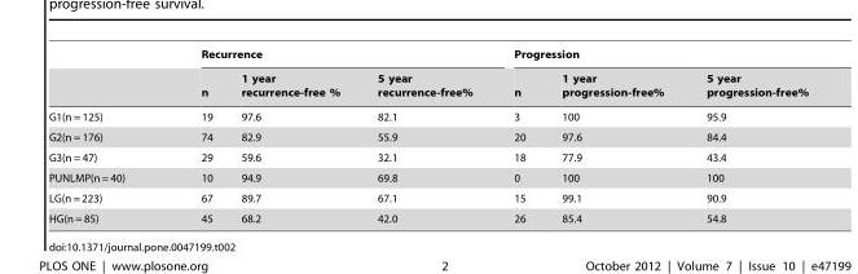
<table><thead><tr><td rowspan="2"></td><td colspan="3">Recurrence</td><td colspan="3">Progression</td></tr><tr><td>n</td><td>1 year recurrence-free %</td><td>5 year recurrence-free%</td><td>n</td><td>1 year progression-free%</td><td>5 year progression-free%</td></tr></thead><tbody><tr><td>G1(n = 125)</td><td>19</td><td>97.6</td><td>82.1</td><td>3</td><td>100</td><td>95.9</td></tr><tr><td>G2(n = 176)</td><td>74</td><td>82.9</td><td>55.9</td><td>20</td><td>97.6</td><td>84.4</td></tr><tr><td>G3(n = 47)</td><td>29</td><td>59.6</td><td>32.1</td><td>18</td><td>77.9</td><td>43.4</td></tr><tr><td>PUNLMP(n = 40)</td><td>10</td><td>94.9</td><td>69.8</td><td>0</td><td>100</td><td>100</td></tr><tr><td>LG(n = 223)</td><td>67</td><td>89.7</td><td>67.1</td><td>15</td><td>99.1</td><td>90.9</td></tr><tr><td>HG(n = 85)</td><td>45</td><td>68.2</td><td>42.0</td><td>26</td><td>85.4</td><td>54.8</td></tr></tbody></table>